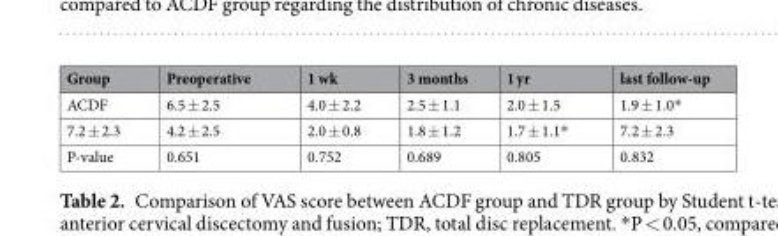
<table><thead><tr><td>Group</td><td>Preoperative</td><td>1 wk</td><td>3 months</td><td>1 yr</td><td>last follow-up</td></tr></thead><tbody><tr><td>ACDF</td><td>6.5 ± 2.5</td><td>4.0 ± 2.2</td><td>2.5 ± 1.1</td><td>2.0 ± 1.5</td><td>1.9 ± 1.0*</td></tr><tr><td>7.2 ± 2.3</td><td>4.2 ± 2.5</td><td>2.0 ± 0.8</td><td>1.8 ± 1.2</td><td>1.7 ± 1.1*</td><td>7.2 ± 2.3</td></tr><tr><td>P-value</td><td>0.651</td><td>0.752</td><td>0.689</td><td>0.805</td><td>0.832</td></tr></tbody></table>